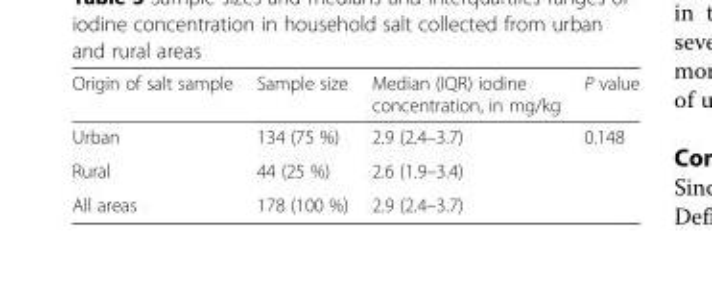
<table><thead><tr><td>Origin of salt sample</td><td>Sample size</td><td>Median (IQR) iodine concentration, in mg/kg</td><td>P value</td></tr></thead><tbody><tr><td>Urban</td><td>134 (75 %)</td><td>2.9 (2.4–3.7)</td><td rowspan="2">0.148</td></tr><tr><td>Rural</td><td>44 (25 %)</td><td>2.6 (1.9–3.4)</td></tr><tr><td>All areas</td><td>178 (100 %)</td><td>2.9 (2.4–3.7)</td><td></td></tr></tbody></table>